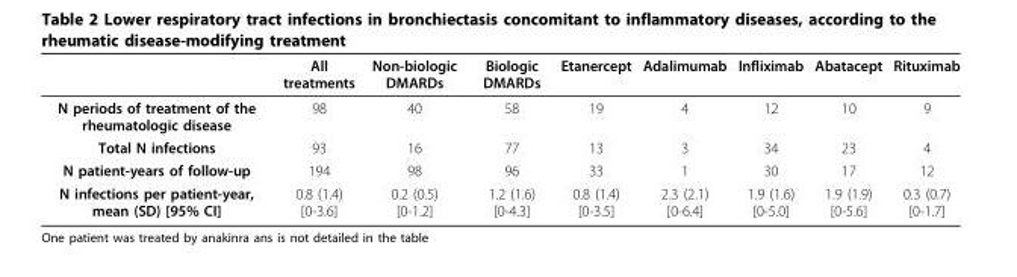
<table><thead><tr><td></td><td>All treatments</td><td>Non-biologic DMARDs</td><td>Biologic DMARDs</td><td>Etanercept</td><td>Adalimumab</td><td>Infliximab</td><td>Abatacept</td><td>Rituximab</td></tr></thead><tbody><tr><td>N periods of treatment of the rheumatologic disease</td><td>98</td><td>40</td><td>58</td><td>19</td><td>4</td><td>12</td><td>10</td><td>9</td></tr><tr><td>Total N infections</td><td>93</td><td>16</td><td>77</td><td>13</td><td>3</td><td>34</td><td>23</td><td>4</td></tr><tr><td>N patient-years of follow-up</td><td>194</td><td>98</td><td>96</td><td>33</td><td>1</td><td>30</td><td>17</td><td>12</td></tr><tr><td>N infections per patient-year, mean (SD) [95% CI]</td><td>0.8 (1.4) [0-3.6]</td><td>0.2 (0.5) [0-1.2]</td><td>1.2 (1.6) [0-4.3]</td><td>0.8 (1.4) [0-3.5]</td><td>2.3 (2.1) [0-6.4]</td><td>1.9 (1.6) [0-5.0]</td><td>1.9 (1.9) [0-5.6]</td><td>0.3 (0.7) [0-1.7]</td></tr></tbody></table>